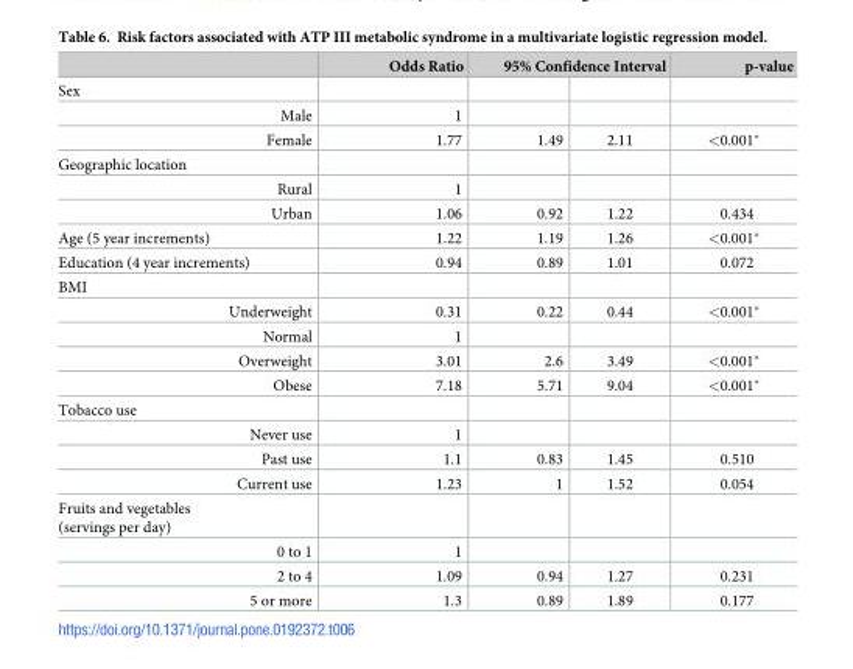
<table><thead><tr><td rowspan="2">Sex</td><td rowspan="2">Odds Ratio</td><td colspan="2">95% Confidence Interval</td><td rowspan="2">p-value</td></tr><tr><td></td><td></td></tr></thead><tbody><tr><td>Male</td><td>1</td><td></td><td></td><td></td></tr><tr><td>Female</td><td>1.77</td><td>1.49</td><td>2.11</td><td>&lt;0.001*</td></tr><tr><td colspan="5">Geographic location</td></tr><tr><td>Rural</td><td>1</td><td></td><td></td><td></td></tr><tr><td>Urban</td><td>1.06</td><td>0.92</td><td>1.22</td><td>0.434</td></tr><tr><td>Age (5 year increments)</td><td>1.22</td><td>1.19</td><td>1.26</td><td>&lt;0.001*</td></tr><tr><td>Education (4 year increments)</td><td>0.94</td><td>0.89</td><td>1.01</td><td>0.072</td></tr><tr><td colspan="5">BMI</td></tr><tr><td>Underweight</td><td>0.31</td><td>0.22</td><td>0.44</td><td>&lt;0.001*</td></tr><tr><td>Normal</td><td>1</td><td></td><td></td><td></td></tr><tr><td>Overweight</td><td>3.01</td><td>2.6</td><td>3.49</td><td>&lt;0.001*</td></tr><tr><td>Obese</td><td>7.18</td><td>5.71</td><td>9.04</td><td>&lt;0.001*</td></tr><tr><td colspan="5">Tobacco use</td></tr><tr><td>Never use</td><td>1</td><td></td><td></td><td></td></tr><tr><td>Past use</td><td>1.1</td><td>0.83</td><td>1.45</td><td>0.510</td></tr><tr><td>Current use</td><td>1.23</td><td>1</td><td>1.52</td><td>0.054</td></tr><tr><td colspan="5">Fruits and vegetables (servings per day)</td></tr><tr><td>0 to 1</td><td>1</td><td></td><td></td><td></td></tr><tr><td>2 to 4</td><td>1.09</td><td>0.94</td><td>1.27</td><td>0.231</td></tr><tr><td>5 or more</td><td>1.3</td><td>0.89</td><td>1.89</td><td>0.177</td></tr></tbody></table>